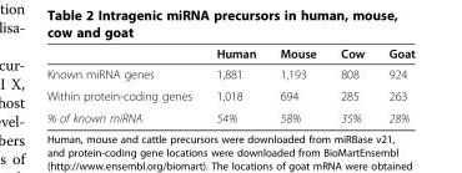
<table><thead><tr><td></td><td>Human</td><td>Mouse</td><td>Cow</td><td>Goat</td></tr></thead><tbody><tr><td>Known miRNA genes</td><td>1,881</td><td>1,193</td><td>808</td><td>924</td></tr><tr><td>Within protein-coding genes</td><td>1,018</td><td>694</td><td>285</td><td>263</td></tr><tr><td>% of known miRNA</td><td>54%</td><td>58%</td><td>35%</td><td>28%</td></tr></tbody></table>